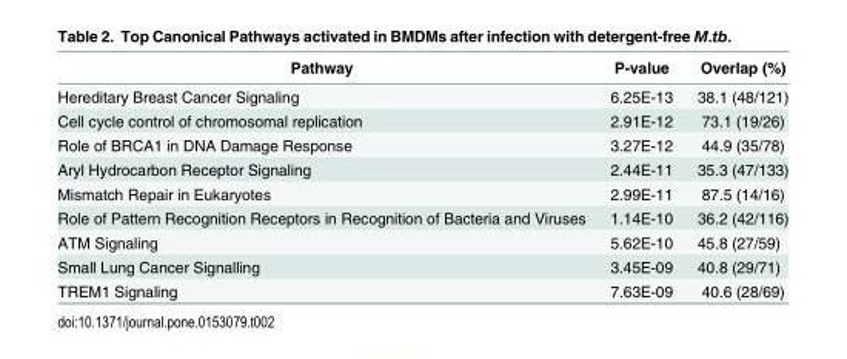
<table><thead><tr><td>Pathway</td><td>P-value</td><td>Overlap (%)</td></tr></thead><tbody><tr><td>Hereditary Breast Cancer Signaling</td><td>6.25E-13</td><td>38.1 (48/121)</td></tr><tr><td>Cell cycle control of chromosomal replication</td><td>2.91E-12</td><td>73.1 (19/26)</td></tr><tr><td>Role of BRCA1 in DNA Damage Response</td><td>3.27E-12</td><td>44.9 (35/78)</td></tr><tr><td>Aryl Hydrocarbon Receptor Signaling</td><td>2.44E-11</td><td>35.3 (47/133)</td></tr><tr><td>Mismatch Repair in Eukaryotes</td><td>2.99E-11</td><td>87.5 (14/16)</td></tr><tr><td>Role of Pattern Recognition Receptors in Recognition of Bacteria and Viruses</td><td>1.14E-10</td><td>36.2 (42/116)</td></tr><tr><td>ATM Signaling</td><td>5.62E-10</td><td>45.8 (27/59)</td></tr><tr><td>Small Lung Cancer Signalling</td><td>3.45E-09</td><td>40.8 (29/71)</td></tr><tr><td>TREM1 Signaling</td><td>7.63E-09</td><td>40.6 (28/69)</td></tr></tbody></table>